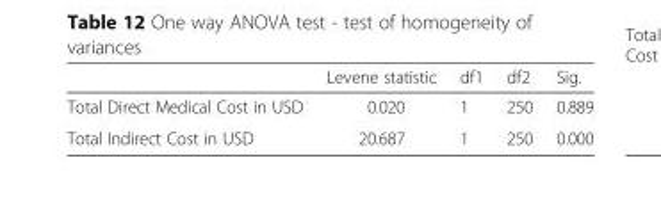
<table><thead><tr><td></td><td>Levene statistic</td><td>df1</td><td>df2</td><td>Sig.</td></tr></thead><tbody><tr><td>Total Direct Medical Cost in USD</td><td>0.020</td><td>1</td><td>250</td><td>0.889</td></tr><tr><td>Total Indirect Cost in USD</td><td>20.687</td><td>1</td><td>250</td><td>0.000</td></tr></tbody></table>